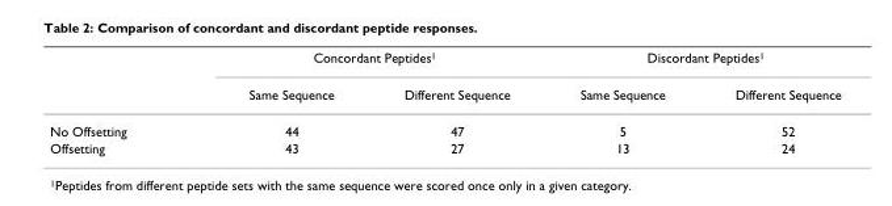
<table><thead><tr><td rowspan="2"></td><td colspan="2">Concordant Peptides<sup>1</sup></td><td colspan="2">Discordant Peptides<sup>1</sup></td></tr><tr><td>Same Sequence</td><td>Different Sequence</td><td>Same Sequence</td><td>Different Sequence</td></tr></thead><tbody><tr><td>No Offsetting</td><td>44</td><td>47</td><td>5</td><td>52</td></tr><tr><td>Offsetting</td><td>43</td><td>27</td><td>13</td><td>24</td></tr></tbody></table>